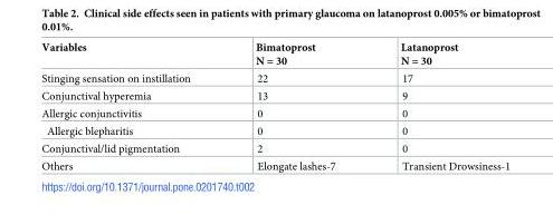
<table><thead><tr><td>Variables</td><td>Bimatoprost N = 30</td><td>Latanoprost N = 30</td></tr></thead><tbody><tr><td>Stinging sensation on instillation</td><td>22</td><td>17</td></tr><tr><td>Conjunctival hyperemia</td><td>13</td><td>9</td></tr><tr><td>Allergic conjunctivitis</td><td>0</td><td>0</td></tr><tr><td>Allergic blepharitis</td><td>0</td><td>0</td></tr><tr><td>Conjunctival/lid pigmentation</td><td>2</td><td>0</td></tr><tr><td>Others</td><td>Elongate lashes-7</td><td>Transient Drowsiness-1</td></tr></tbody></table>